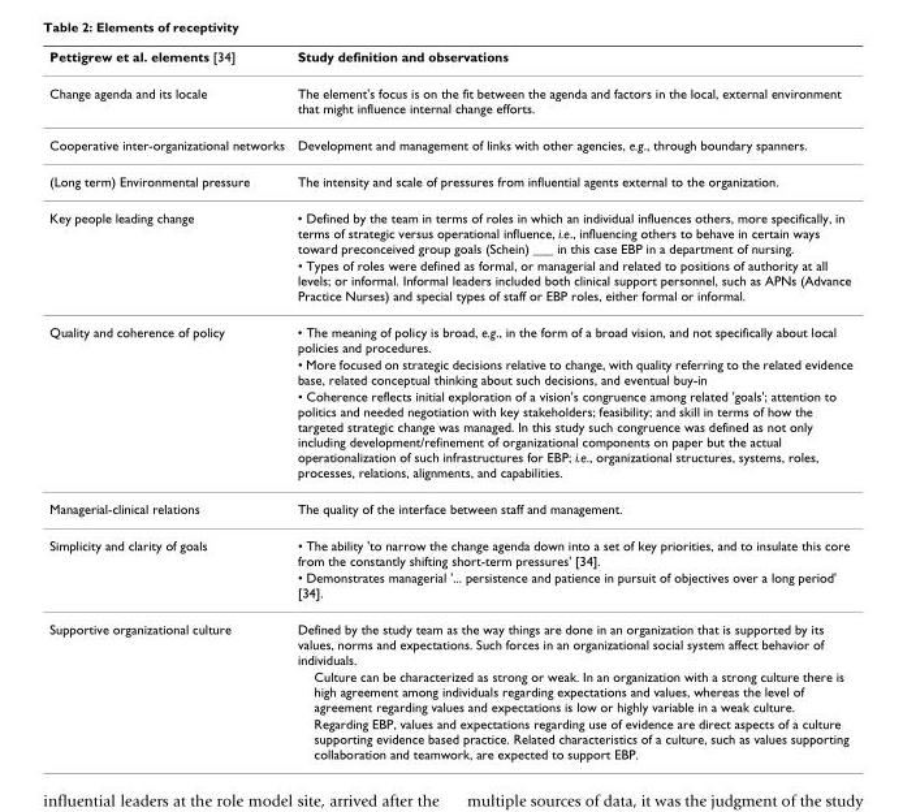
<table><thead><tr><td>Pettigrew et al. elements [34]</td><td>Study definition and observations</td></tr></thead><tbody><tr><td>Change agenda and its locale</td><td>The element&#x27;s focus is on the fit between the agenda and factors in the local, external environment that might influence internal change efforts.</td></tr><tr><td>Cooperative inter-organizational networks</td><td>Development and management of links with other agencies, e.g., through boundary spanners.</td></tr><tr><td>(Long term) Environmental pressure</td><td>The intensity and scale of pressures from influential agents external to the organization.</td></tr><tr><td rowspan="2">Key people leading change</td><td>• Defined by the team in terms of roles in which an individual influences others, more specifically, in terms of strategic versus operational influence, i.e., influencing others to behave in certain ways toward preconceived group goals (Schein) ___ in this case EBP in a department of nursing.</td></tr><tr><td>• Types of roles were defined as formal, or managerial and related to positions of authority at all levels; or informal. Informal leaders included both clinical support personnel, such as APNs (Advance Practice Nurses) and special types of staff or EBP roles, either formal or informal.</td></tr><tr><td rowspan="3">Quality and coherence of policy</td><td>• The meaning of policy is broad, e.g., in the form of a broad vision, and not specifically about local policies and procedures.</td></tr><tr><td>• More focused on strategic decisions relative to change, with quality referring to the related evidence base, related conceptual thinking about such decisions, and eventual buy-in</td></tr><tr><td>• Coherence reflects initial exploration of a vision&#x27;s congruence among related &#x27;goals&#x27;; attention to politics and needed negotiation with key stakeholders; feasibility; and skill in terms of how the targeted strategic change was managed. In this study such congruence was defined as not only including development/refinement of organizational components on paper but the actual operationalization of such infrastructures for EBP; i.e., organizational structures, systems, roles, processes, relations, alignments, and capabilities.</td></tr><tr><td>Managerial-clinical relations</td><td>The quality of the interface between staff and management.</td></tr><tr><td rowspan="2">Simplicity and clarity of goals</td><td>• The ability &#x27;to narrow the change agenda down into a set of key priorities, and to insulate this core from the constantly shifting short-term pressures&#x27; [34].</td></tr><tr><td>• Demonstrates managerial &#x27;... persistence and patience in pursuit of objectives over a long period&#x27; [34].</td></tr><tr><td rowspan="3">Supportive organizational culture</td><td>Defined by the study team as the way things are done in an organization that is supported by its values, norms and expectations. Such forces in an organizational social system affect behavior of individuals.</td></tr><tr><td>Culture can be characterized as strong or weak. In an organization with a strong culture there is high agreement among individuals regarding expectations and values, whereas the level of agreement regarding values and expectations is low or highly variable in a weak culture.</td></tr><tr><td>Regarding EBP, values and expectations regarding use of evidence are direct aspects of a culture supporting evidence based practice. Related characteristics of a culture, such as values supporting collaboration and teamwork, are expected to support EBP.</td></tr></tbody></table>